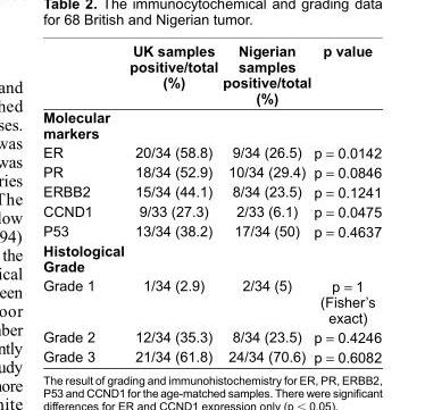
<table><thead><tr><td></td><td>UK samples positive/total (%)</td><td>Nigerian samples positive/total (%)</td><td>p value</td></tr></thead><tbody><tr><td colspan="4">Molecular markers</td></tr><tr><td>ER</td><td>20/34 (58.8)</td><td>9/34 (26.5)</td><td>p = 0.0142</td></tr><tr><td>PR</td><td>18/34 (52.9)</td><td>10/34 (29.4)</td><td>p = 0.0846</td></tr><tr><td>ERBB2</td><td>15/34 (44.1)</td><td>8/34 (23.5)</td><td>p = 0.1241</td></tr><tr><td>CCND1</td><td>9/33 (27.3)</td><td>2/33 (6.1)</td><td>p = 0.0475</td></tr><tr><td>P53</td><td>13/34 (38.2)</td><td>17/34 (50)</td><td>p = 0.4637</td></tr><tr><td colspan="4">Histological Grade</td></tr><tr><td>Grade 1</td><td>1/34 (2.9)</td><td>2/34 (5)</td><td>p = 1 (Fisher’s exact)</td></tr><tr><td>Grade 2</td><td>12/34 (35.3)</td><td>8/34 (23.5)</td><td>p = 0.4246</td></tr><tr><td>Grade 3</td><td>21/34 (61.8)</td><td>24/34 (70.6)</td><td>p = 0.6082</td></tr></tbody></table>